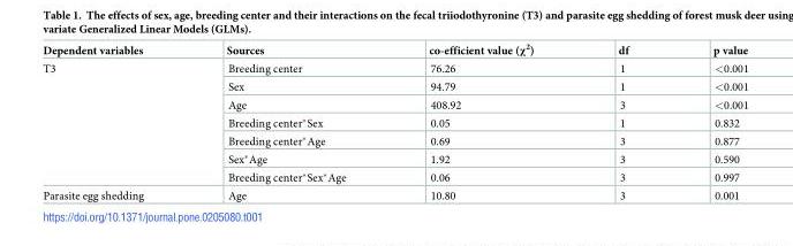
<table><thead><tr><td>Dependent variables</td><td>Sources</td><td>co-efficient value (χ<sup>2</sup>)</td><td>df</td><td>p value</td></tr></thead><tbody><tr><td rowspan="7">T3</td><td>Breeding center</td><td>76.26</td><td>1</td><td>&lt;0.001</td></tr><tr><td>Sex</td><td>94.79</td><td>1</td><td>&lt;0.001</td></tr><tr><td>Age</td><td>408.92</td><td>3</td><td>&lt;0.001</td></tr><tr><td>Breeding center*Sex</td><td>0.05</td><td>1</td><td>0.832</td></tr><tr><td>Breeding center*Age</td><td>0.69</td><td>3</td><td>0.877</td></tr><tr><td>Sex*Age</td><td>1.92</td><td>3</td><td>0.590</td></tr><tr><td>Breeding center*Sex*Age</td><td>0.06</td><td>3</td><td>0.997</td></tr><tr><td>Parasite egg shedding</td><td>Age</td><td>10.80</td><td>3</td><td>0.001</td></tr></tbody></table>